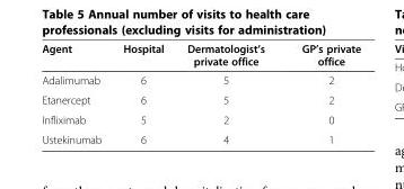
<table><thead><tr><td>Agent</td><td>Hospital</td><td>Dermatologist’s private office</td><td>GP’s private office</td></tr></thead><tbody><tr><td>Adalimumab</td><td>6</td><td>5</td><td>2</td></tr><tr><td>Etanercept</td><td>6</td><td>5</td><td>2</td></tr><tr><td>Infliximab</td><td>5</td><td>2</td><td>0</td></tr><tr><td>Ustekinumab</td><td>6</td><td>4</td><td>1</td></tr></tbody></table>